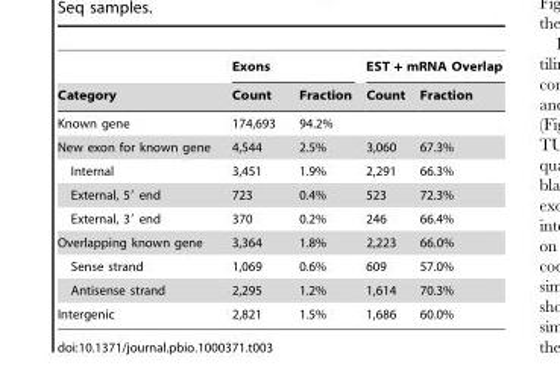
<table><thead><tr><td rowspan="2">Category</td><td colspan="2">Exons</td><td colspan="2">EST + mRNA Overlap</td></tr><tr><td>Count</td><td>Fraction</td><td>Count</td><td>Fraction</td></tr></thead><tbody><tr><td>Known gene</td><td>174,693</td><td>94.2%</td><td></td><td></td></tr><tr><td>New exon for known gene</td><td>4,544</td><td>2.5%</td><td>3,060</td><td>67.3%</td></tr><tr><td>Internal</td><td>3,451</td><td>1.9%</td><td>2,291</td><td>66.3%</td></tr><tr><td>External, 5′ end</td><td>723</td><td>0.4%</td><td>523</td><td>72.3%</td></tr><tr><td>External, 3′ end</td><td>370</td><td>0.2%</td><td>246</td><td>66.4%</td></tr><tr><td>Overlapping known gene</td><td>3,364</td><td>1.8%</td><td>2,223</td><td>66.0%</td></tr><tr><td>Sense strand</td><td>1,069</td><td>0.6%</td><td>609</td><td>57.0%</td></tr><tr><td>Antisense strand</td><td>2,295</td><td>1.2%</td><td>1,614</td><td>70.3%</td></tr><tr><td>Intergenic</td><td>2,821</td><td>1.5%</td><td>1,686</td><td>60.0%</td></tr></tbody></table>